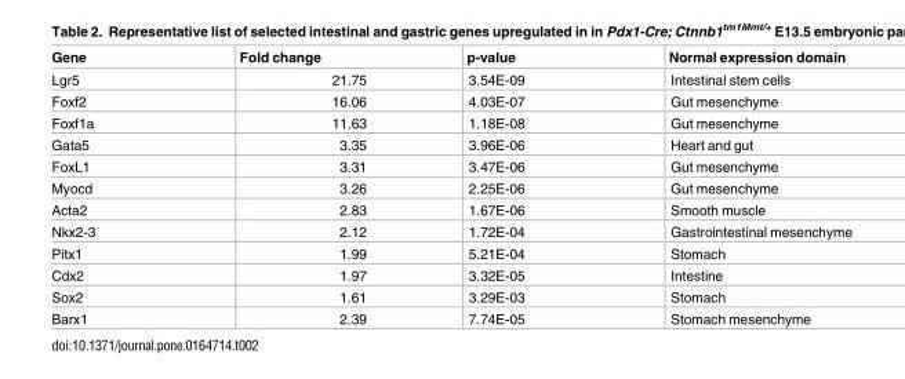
<table><thead><tr><td>Gene</td><td>Fold change</td><td>p-value</td><td>Normal expression domain</td></tr></thead><tbody><tr><td>Lgr5</td><td>21.75</td><td>3.54E-09</td><td>Intestinal stem cells</td></tr><tr><td>Foxf2</td><td>16.06</td><td>4.03E-07</td><td>Gut mesenchyme</td></tr><tr><td>Foxf1a</td><td>11.63</td><td>1.18E-08</td><td>Gut mesenchyme</td></tr><tr><td>Gata5</td><td>3.35</td><td>3.96E-06</td><td>Heart and gut</td></tr><tr><td>FoxL1</td><td>3.31</td><td>3.47E-06</td><td>Gut mesenchyme</td></tr><tr><td>Myocd</td><td>3.26</td><td>2.25E-06</td><td>Gut mesenchyme</td></tr><tr><td>Acta2</td><td>2.83</td><td>1.67E-06</td><td>Smooth muscle</td></tr><tr><td>Nkx2-3</td><td>2.12</td><td>1.72E-04</td><td>Gastrointestinal mesenchyme</td></tr><tr><td>Pitx1</td><td>1.99</td><td>5.21E-04</td><td>Stomach</td></tr><tr><td>Cdx2</td><td>1.97</td><td>3.32E-05</td><td>Intestine</td></tr><tr><td>Sox2</td><td>1.61</td><td>3.29E-03</td><td>Stomach</td></tr><tr><td>Barx1</td><td>2.39</td><td>7.74E-05</td><td>Stomach mesenchyme</td></tr></tbody></table>